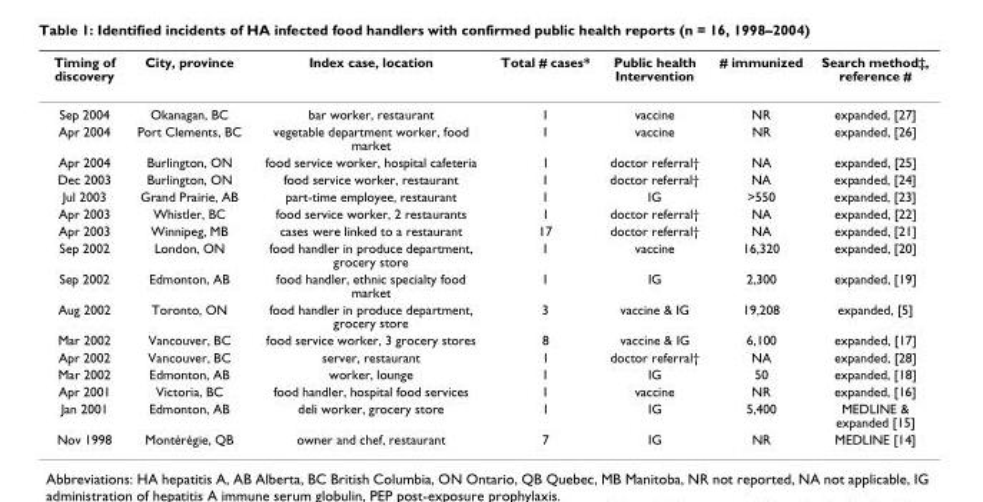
<table><thead><tr><td>Timing of discovery</td><td>City, province</td><td>Index case, location</td><td>Total # cases*</td><td>Public health Intervention</td><td># immunized</td><td>Search method‡, reference #</td></tr></thead><tbody><tr><td>Sep 2004</td><td>Okanagan, BC</td><td>bar worker, restaurant</td><td>1</td><td>vaccine</td><td>NR</td><td>expanded, [27]</td></tr><tr><td>Apr 2004</td><td>Port Clements, BC</td><td>vegetable department worker, food market</td><td>1</td><td>vaccine</td><td>NR</td><td>expanded, [26]</td></tr><tr><td>Apr 2004</td><td>Burlington, ON</td><td>food service worker, hospital cafeteria</td><td>1</td><td>doctor referral†</td><td>NA</td><td>expanded, [25]</td></tr><tr><td>Dec 2003</td><td>Burlington, ON</td><td>food service worker, restaurant</td><td>1</td><td>doctor referral†</td><td>NA</td><td>expanded, [24]</td></tr><tr><td>Jul 2003</td><td>Grand Prairie, AB</td><td>part-time employee, restaurant</td><td>1</td><td>IG</td><td>&gt;550</td><td>expanded, [23]</td></tr><tr><td>Apr 2003</td><td>Whistler, BC</td><td>food service worker, 2 restaurants</td><td>1</td><td>doctor referral†</td><td>NA</td><td>expanded, [22]</td></tr><tr><td>Apr 2003</td><td>Winnipeg, MB</td><td>cases were linked to a restaurant</td><td>17</td><td>doctor referral†</td><td>NA</td><td>expanded, [21]</td></tr><tr><td>Sep 2002</td><td>London, ON</td><td>food handler in produce department, grocery store</td><td>1</td><td>vaccine</td><td>16,320</td><td>expanded, [20]</td></tr><tr><td>Sep 2002</td><td>Edmonton, AB</td><td>food handler, ethnic specialty food market</td><td>1</td><td>IG</td><td>2,300</td><td>expanded, [19]</td></tr><tr><td>Aug 2002</td><td>Toronto, ON</td><td>food handler in produce department, grocery store</td><td>3</td><td>vaccine &amp; IG</td><td>19,208</td><td>expanded, [5]</td></tr><tr><td>Mar 2002</td><td>Vancouver, BC</td><td>food service worker, 3 grocery stores</td><td>8</td><td>vaccine &amp; IG</td><td>6,100</td><td>expanded, [17]</td></tr><tr><td>Apr 2002</td><td>Vancouver, BC</td><td>server, restaurant</td><td>1</td><td>doctor referral†</td><td>NA</td><td>expanded, [28]</td></tr><tr><td>Mar 2002</td><td>Edmonton, AB</td><td>worker, lounge</td><td>1</td><td>IG</td><td>50</td><td>expanded, [18]</td></tr><tr><td>Apr 2001</td><td>Victoria, BC</td><td>food handler, hospital food services</td><td>1</td><td>vaccine</td><td>NR</td><td>expanded, [16]</td></tr><tr><td>Jan 2001</td><td>Edmonton, AB</td><td>deli worker, grocery store</td><td>1</td><td>IG</td><td>5,400</td><td>MEDLINE &amp; expanded [15]</td></tr><tr><td>Nov 1998</td><td>Montérégie, QB</td><td>owner and chef, restaurant</td><td>7</td><td>IG</td><td>NR</td><td>MEDLINE [14]</td></tr></tbody></table>